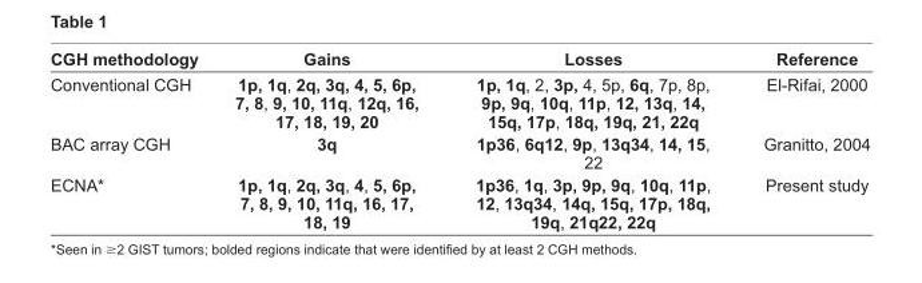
<table><thead><tr><td>CGH methodology</td><td>Gains</td><td>Losses</td><td>Reference</td></tr></thead><tbody><tr><td>Conventional CGH</td><td>1p, 1q, 2q, 3q, 4, 5, 6p, 7, 8, 9, 10, 11q, 12q, 16, 17, 18, 19, 20</td><td>1p, 1q, 2, 3p, 4, 5p, 6q, 7p, 8p, 9p, 9q, 10q, 11p, 12, 13q, 14, 15q, 17p, 18q, 19q, 21, 22q</td><td>El-Rifai, 2000</td></tr><tr><td>BAC array CGH</td><td>3q</td><td>1p36, 6q12, 9p, 13q34, 14, 15, 22</td><td>Granitto, 2004</td></tr><tr><td>ECNA*</td><td>1p, 1q, 2q, 3q, 4, 5, 6p, 7, 8, 9, 10, 11q, 16, 17, 18, 19</td><td>1p36, 1q, 3p, 9p, 9q, 10q, 11p, 12, 13q34, 14q, 15q, 17p, 18q, 19q, 21q22, 22q</td><td>Present study</td></tr></tbody></table>